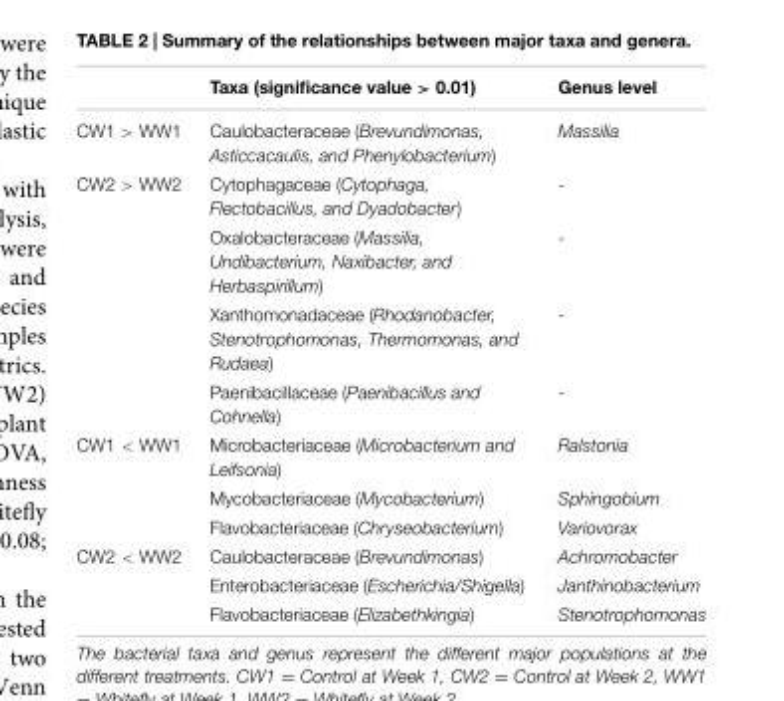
<table><thead><tr><td></td><td>Taxa (significance value &gt; 0.01)</td><td>Genus level</td></tr></thead><tbody><tr><td>CW1 &gt; WW1</td><td>Caulobacteraceae (Brevundimonas, Asticcacaulis, and Phenylobacterium)</td><td>Massilia</td></tr><tr><td rowspan="4">CW2 &gt; WW2</td><td>Cytophagaceae (Cytophaga, Flectobacillus, and Dyadobacter)</td><td>-</td></tr><tr><td>Oxalobacteraceae (Massilia, Undibacterium, Naxibacter, and Herbaspirillum)</td><td>-</td></tr><tr><td>Xanthomonadaceae (Rhodanobacter, Stenotrophomonas, Thermomonas, and Rudaea)</td><td>-</td></tr><tr><td>Paenibacillaceae (Paenibacillus and Cohnella)</td><td>-</td></tr><tr><td rowspan="3">CW1 &lt; WW1</td><td>Microbacteriaceae (Microbacterium and Leifsonia)</td><td>Ralstonia</td></tr><tr><td>Mycobacteriaceae (Mycobacterium)</td><td>Sphingobium</td></tr><tr><td>Flavobacteriaceae (Chryseobacterium)</td><td>Variovorax</td></tr><tr><td rowspan="3">CW2 &lt; WW2</td><td>Caulobacteraceae (Brevundimonas)</td><td>Achromobacter</td></tr><tr><td>Enterobacteriaceae (Escherichia/Shigella)</td><td>Janthinobacterium</td></tr><tr><td>Flavobacteriaceae (Elizabethkingia)</td><td>Stenotrophomonas</td></tr></tbody></table>